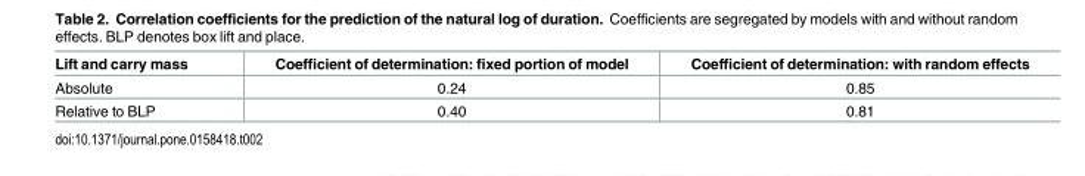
<table><thead><tr><td>Lift and carry mass</td><td>Coefficient of determination: fixed portion of model</td><td>Coefficient of determination: with random effects</td></tr></thead><tbody><tr><td>Absolute</td><td>0.24</td><td>0.85</td></tr><tr><td>Relative to BLP</td><td>0.40</td><td>0.81</td></tr></tbody></table>